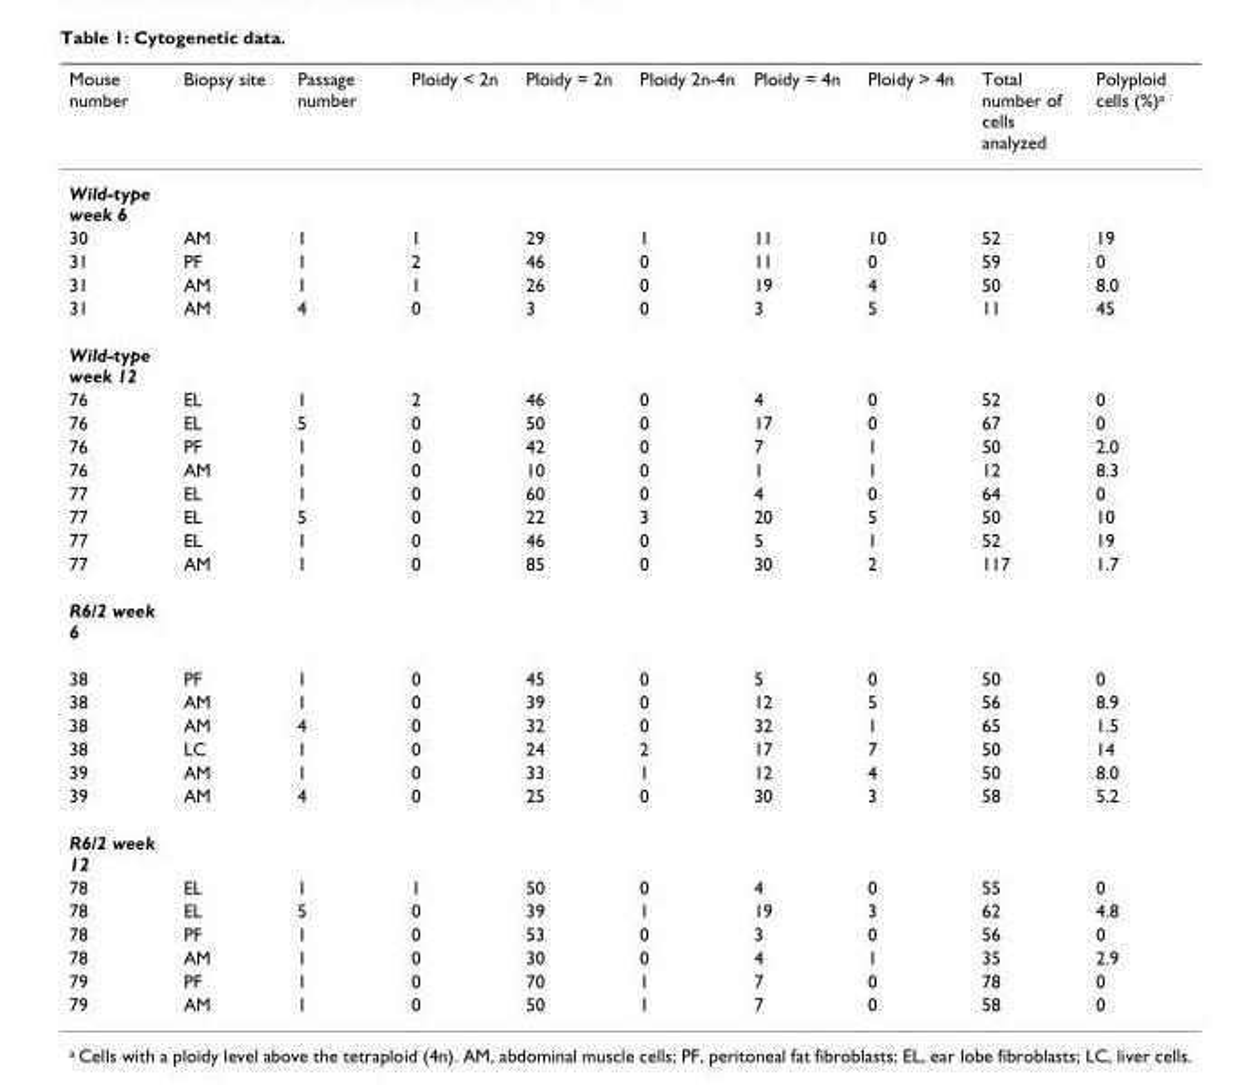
<table><thead><tr><td>Mouse number</td><td>Biopsy site</td><td>Passage number</td><td>Ploidy &lt; 2n</td><td>Ploidy = 2n</td><td>Ploidy 2n-4n</td><td>Ploidy = 4n</td><td>Ploidy &gt; 4n</td><td>Total number of cells analyzed</td><td>Polyploid cells (%)<sup>a</sup></td></tr></thead><tbody><tr><td colspan="10">Wild-type week 6</td></tr><tr><td>30</td><td>AM</td><td>1</td><td>1</td><td>29</td><td>1</td><td>11</td><td>10</td><td>52</td><td>19</td></tr><tr><td>31</td><td>PF</td><td>1</td><td>2</td><td>46</td><td>0</td><td>11</td><td>0</td><td>59</td><td>0</td></tr><tr><td>31</td><td>AM</td><td>1</td><td>1</td><td>26</td><td>0</td><td>19</td><td>4</td><td>50</td><td>8.0</td></tr><tr><td>31</td><td>AM</td><td>4</td><td>0</td><td>3</td><td>0</td><td>3</td><td>5</td><td>11</td><td>45</td></tr><tr><td colspan="10">Wild-type week 12</td></tr><tr><td>76</td><td>EL</td><td>1</td><td>2</td><td>46</td><td>0</td><td>4</td><td>0</td><td>52</td><td>0</td></tr><tr><td>76</td><td>EL</td><td>5</td><td>0</td><td>50</td><td>0</td><td>17</td><td>0</td><td>67</td><td>0</td></tr><tr><td>76</td><td>PF</td><td>1</td><td>0</td><td>42</td><td>0</td><td>7</td><td>1</td><td>50</td><td>2.0</td></tr><tr><td>76</td><td>AM</td><td>1</td><td>0</td><td>10</td><td>0</td><td>1</td><td>1</td><td>12</td><td>8.3</td></tr><tr><td>77</td><td>EL</td><td>1</td><td>0</td><td>60</td><td>0</td><td>4</td><td>0</td><td>64</td><td>0</td></tr><tr><td>77</td><td>EL</td><td>5</td><td>0</td><td>22</td><td>3</td><td>20</td><td>5</td><td>50</td><td>10</td></tr><tr><td>77</td><td>EL</td><td>1</td><td>0</td><td>46</td><td>0</td><td>5</td><td>1</td><td>52</td><td>19</td></tr><tr><td>77</td><td>AM</td><td>1</td><td>0</td><td>85</td><td>0</td><td>30</td><td>2</td><td>117</td><td>1.7</td></tr><tr><td colspan="10">R6/2 week 6</td></tr><tr><td>38</td><td>PF</td><td>1</td><td>0</td><td>45</td><td>0</td><td>5</td><td>0</td><td>50</td><td>0</td></tr><tr><td>38</td><td>AM</td><td>1</td><td>0</td><td>39</td><td>0</td><td>12</td><td>5</td><td>56</td><td>8.9</td></tr><tr><td>38</td><td>AM</td><td>4</td><td>0</td><td>32</td><td>0</td><td>32</td><td>1</td><td>65</td><td>1.5</td></tr><tr><td>38</td><td>LC</td><td>1</td><td>0</td><td>24</td><td>2</td><td>17</td><td>7</td><td>50</td><td>14</td></tr><tr><td>39</td><td>AM</td><td>1</td><td>0</td><td>33</td><td>1</td><td>12</td><td>4</td><td>50</td><td>8.0</td></tr><tr><td>39</td><td>AM</td><td>4</td><td>0</td><td>25</td><td>0</td><td>30</td><td>3</td><td>58</td><td>5.2</td></tr><tr><td colspan="10">R6/2 week 12</td></tr><tr><td>78</td><td>EL</td><td>1</td><td>1</td><td>50</td><td>0</td><td>4</td><td>0</td><td>55</td><td>0</td></tr><tr><td>78</td><td>EL</td><td>5</td><td>0</td><td>39</td><td>1</td><td>19</td><td>3</td><td>62</td><td>4.8</td></tr><tr><td>78</td><td>PF</td><td>1</td><td>0</td><td>53</td><td>0</td><td>3</td><td>0</td><td>56</td><td>0</td></tr><tr><td>78</td><td>AM</td><td>1</td><td>0</td><td>30</td><td>0</td><td>4</td><td>1</td><td>35</td><td>2.9</td></tr><tr><td>79</td><td>PF</td><td>1</td><td>0</td><td>70</td><td>1</td><td>7</td><td>0</td><td>78</td><td>0</td></tr><tr><td>79</td><td>AM</td><td>1</td><td>0</td><td>50</td><td>1</td><td>7</td><td>0</td><td>58</td><td>0</td></tr></tbody></table>